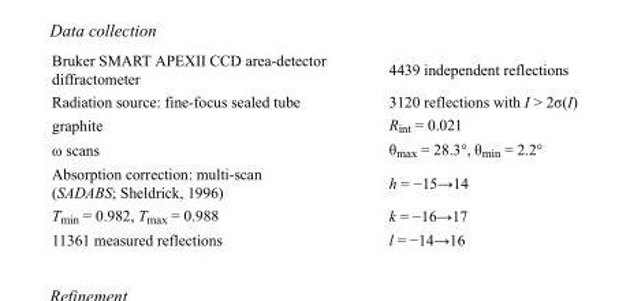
<table><tbody><tr><td>Bruker SMART APEXII CCD area-detector diffractometer</td><td>4439 independent reflections</td></tr><tr><td>Radiation source: fine-focus sealed tube</td><td>3120 reflections with I &gt; 2σ(I)</td></tr><tr><td>graphite</td><td>R<sub>int</sub> = 0.021</td></tr><tr><td>ω scans</td><td>θ<sub>max</sub> = 28.3°, θ<sub>min</sub> = 2.2°</td></tr><tr><td>Absorption correction: multi-scan (SADABS; Sheldrick, 1996)</td><td>h = −15→14</td></tr><tr><td>T<sub>min</sub> = 0.982, T<sub>max</sub> = 0.988</td><td>k = −16→17</td></tr><tr><td>11361 measured reflections</td><td>l = −14→16</td></tr></tbody></table>